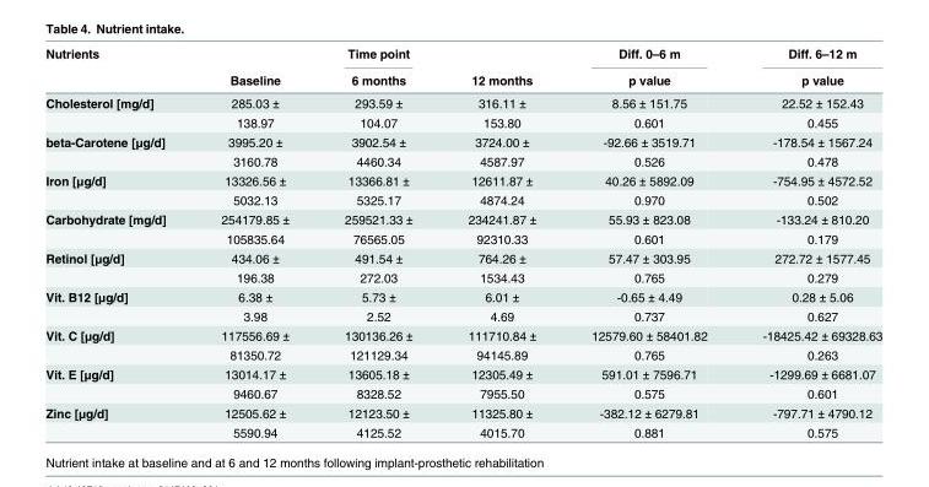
<table><thead><tr><td rowspan="2">Nutrients</td><td rowspan="2">Baseline</td><td rowspan="2">Time point 6 months</td><td rowspan="2">12 months</td><td rowspan="2">Diff. 0–6 m p value</td><td rowspan="2">Diff. 6–12 m p value</td></tr><tr></tr></thead><tbody><tr><td rowspan="2">Cholesterol [mg/d]</td><td>285.03 ±</td><td>293.59 ±</td><td>316.11 ±</td><td>8.56 ± 151.75</td><td>22.52 ± 152.43</td></tr><tr><td>138.97</td><td>104.07</td><td>153.80</td><td>0.601</td><td>0.455</td></tr><tr><td rowspan="2">beta-Carotene [μg/d]</td><td>3995.20 ±</td><td>3902.54 ±</td><td>3724.00 ±</td><td>-92.66 ± 3519.71</td><td>-178.54 ± 1567.24</td></tr><tr><td>3160.78</td><td>4460.34</td><td>4587.97</td><td>0.526</td><td>0.478</td></tr><tr><td rowspan="2">Iron [μg/d]</td><td>13326.56 ±</td><td>13366.81 ±</td><td>12611.87 ±</td><td>40.26 ± 5892.09</td><td>-754.95 ± 4572.52</td></tr><tr><td>5032.13</td><td>5325.17</td><td>4874.24</td><td>0.970</td><td>0.502</td></tr><tr><td rowspan="2">Carbohydrate [mg/d]</td><td>254179.85 ±</td><td>259521.33 ±</td><td>234241.87 ±</td><td>55.93 ± 823.08</td><td>-133.24 ± 810.20</td></tr><tr><td>105835.64</td><td>76565.05</td><td>92310.33</td><td>0.601</td><td>0.179</td></tr><tr><td rowspan="2">Retinol [μg/d]</td><td>434.06 ±</td><td>491.54 ±</td><td>764.26 ±</td><td>57.47 ± 303.95</td><td>272.72 ± 1577.45</td></tr><tr><td>196.38</td><td>272.03</td><td>1534.43</td><td>0.765</td><td>0.279</td></tr><tr><td rowspan="2">Vit. B12 [μg/d]</td><td>6.38 ±</td><td>5.73 ±</td><td>6.01 ±</td><td>-0.65 ± 4.49</td><td>0.28 ± 5.06</td></tr><tr><td>3.98</td><td>2.52</td><td>4.69</td><td>0.737</td><td>0.627</td></tr><tr><td rowspan="2">Vit. C [μg/d]</td><td>117556.69 ±</td><td>130136.26 ±</td><td>111710.84 ±</td><td>12579.60 ± 58401.82</td><td>-18425.42 ± 69328.63</td></tr><tr><td>81350.72</td><td>121129.34</td><td>94145.89</td><td>0.765</td><td>0.263</td></tr><tr><td rowspan="2">Vit. E [μg/d]</td><td>13014.17 ±</td><td>13605.18 ±</td><td>12305.49 ±</td><td>591.01 ± 7596.71</td><td>-1299.69 ± 6681.07</td></tr><tr><td>9460.67</td><td>8328.52</td><td>7955.50</td><td>0.575</td><td>0.601</td></tr><tr><td rowspan="2">Zinc [μg/d]</td><td>12505.62 ±</td><td>12123.50 ±</td><td>11325.80 ±</td><td>-382.12 ± 6279.81</td><td>-797.71 ± 4790.12</td></tr><tr><td>5590.94</td><td>4125.52</td><td>4015.70</td><td>0.881</td><td>0.575</td></tr></tbody></table>